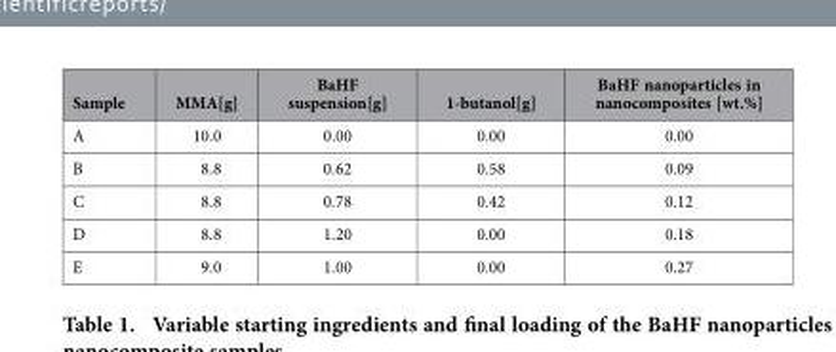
<table><thead><tr><td>Sample</td><td>MMA[g]</td><td>BaHF suspension[g]</td><td>1-butanol[g]</td><td>BaHF nanoparticles in nanocomposites [wt.%]</td></tr></thead><tbody><tr><td>A</td><td>10.0</td><td>0.00</td><td>0.00</td><td>0.00</td></tr><tr><td>B</td><td>8.8</td><td>0.62</td><td>0.58</td><td>0.09</td></tr><tr><td>C</td><td>8.8</td><td>0.78</td><td>0.42</td><td>0.12</td></tr><tr><td>D</td><td>8.8</td><td>1.20</td><td>0.00</td><td>0.18</td></tr><tr><td>E</td><td>9.0</td><td>1.00</td><td>0.00</td><td>0.27</td></tr></tbody></table>